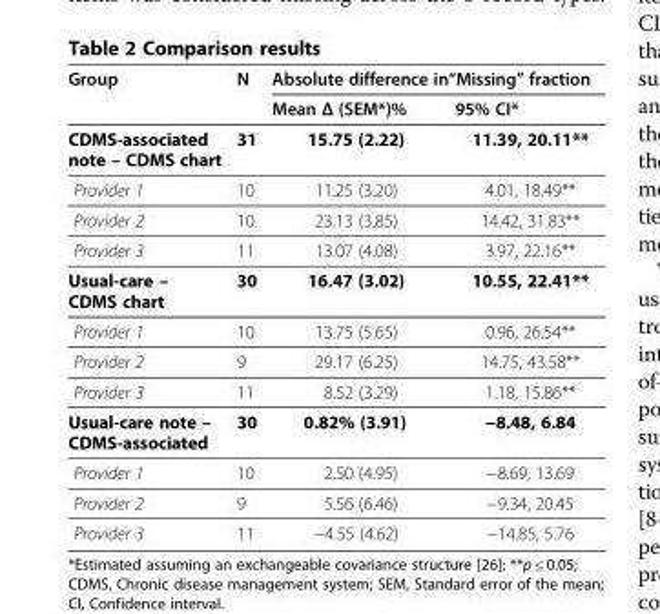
<table><thead><tr><td rowspan="2">Group</td><td rowspan="2">N</td><td colspan="2">Absolute difference in“Missing” fraction</td></tr><tr><td>Mean Δ (SEM*)%</td><td>95% CI*</td></tr></thead><tbody><tr><td>CDMS-associated note – CDMS chart</td><td>31</td><td>15.75 (2.22)</td><td>11.39, 20.11**</td></tr><tr><td>Provider 1</td><td>10</td><td>11.25 (3.20)</td><td>4.01, 18.49**</td></tr><tr><td>Provider 2</td><td>10</td><td>23.13 (3.85)</td><td>14.42, 31.83**</td></tr><tr><td>Provider 3</td><td>11</td><td>13.07 (4.08)</td><td>3.97, 22.16**</td></tr><tr><td>Usual-care – CDMS chart</td><td>30</td><td>16.47 (3.02)</td><td>10.55, 22.41**</td></tr><tr><td>Provider 1</td><td>10</td><td>13.75 (5.65)</td><td>0.96, 26.54**</td></tr><tr><td>Provider 2</td><td>9</td><td>29.17 (6.25)</td><td>14.75, 43.58**</td></tr><tr><td>Provider 3</td><td>11</td><td>8.52 (3.29)</td><td>1.18, 15.86**</td></tr><tr><td>Usual-care note – CDMS-associated</td><td>30</td><td>0.82% (3.91)</td><td>−8.48, 6.84</td></tr><tr><td>Provider 1</td><td>10</td><td>2.50 (4.95)</td><td>−8.69, 13.69</td></tr><tr><td>Provider 2</td><td>9</td><td>5.56 (6.46)</td><td>−9.34, 20.45</td></tr><tr><td>Provider 3</td><td>11</td><td>−4.55 (4.62)</td><td>−14.85, 5.76</td></tr></tbody></table>